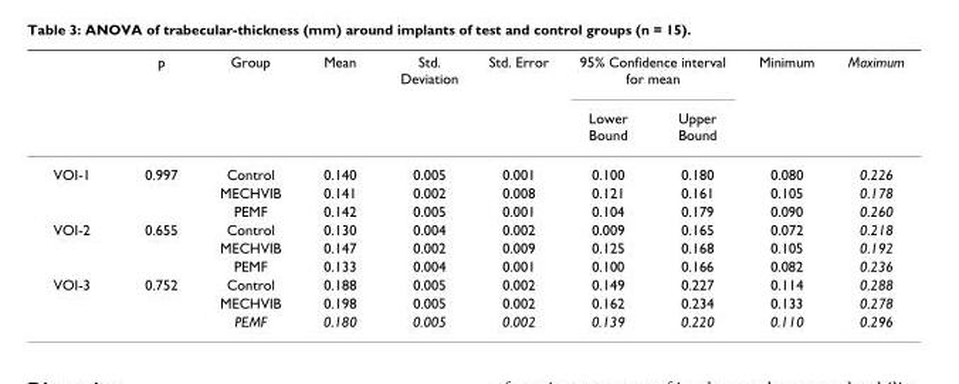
<table><thead><tr><td rowspan="2"></td><td rowspan="2">p</td><td rowspan="2">Group</td><td rowspan="2">Mean</td><td rowspan="2">Std. Deviation</td><td rowspan="2">Std. Error</td><td colspan="2">95% Confidence interval for mean</td><td rowspan="2">Minimum</td><td rowspan="2">Maximum</td></tr><tr><td>Lower Bound</td><td>Upper Bound</td></tr></thead><tbody><tr><td rowspan="3">VOI-1</td><td>0.997</td><td>Control</td><td>0.140</td><td>0.005</td><td>0.001</td><td>0.100</td><td>0.180</td><td>0.080</td><td>0.226</td></tr><tr><td></td><td>MECHVIB</td><td>0.141</td><td>0.002</td><td>0.008</td><td>0.121</td><td>0.161</td><td>0.105</td><td>0.178</td></tr><tr><td></td><td>PEMF</td><td>0.142</td><td>0.005</td><td>0.001</td><td>0.104</td><td>0.179</td><td>0.090</td><td>0.260</td></tr><tr><td rowspan="3">VOI-2</td><td>0.655</td><td>Control</td><td>0.130</td><td>0.004</td><td>0.002</td><td>0.009</td><td>0.165</td><td>0.072</td><td>0.218</td></tr><tr><td></td><td>MECHVIB</td><td>0.147</td><td>0.002</td><td>0.009</td><td>0.125</td><td>0.168</td><td>0.105</td><td>0.192</td></tr><tr><td></td><td>PEMF</td><td>0.133</td><td>0.004</td><td>0.001</td><td>0.100</td><td>0.166</td><td>0.082</td><td>0.236</td></tr><tr><td rowspan="3">VOI-3</td><td>0.752</td><td>Control</td><td>0.188</td><td>0.005</td><td>0.002</td><td>0.149</td><td>0.227</td><td>0.114</td><td>0.288</td></tr><tr><td></td><td>MECHVIB</td><td>0.198</td><td>0.005</td><td>0.002</td><td>0.162</td><td>0.234</td><td>0.133</td><td>0.278</td></tr><tr><td></td><td>PEMF</td><td>0.180</td><td>0.005</td><td>0.002</td><td>0.139</td><td>0.220</td><td>0.110</td><td>0.296</td></tr></tbody></table>